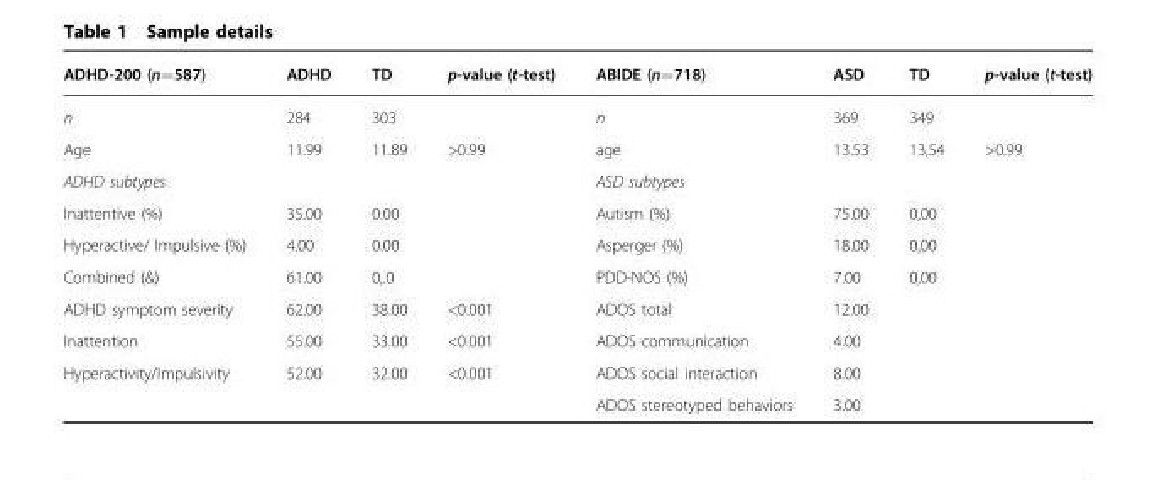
<table><thead><tr><td>ADHD-200 (n=587)</td><td>ADHD</td><td>TD</td><td>p-value (t-test)</td><td>ABIDE (n=718)</td><td>ASD</td><td>TD</td><td>p-value (t-test)</td></tr></thead><tbody><tr><td>n</td><td>284</td><td>303</td><td></td><td>n</td><td>369</td><td>349</td><td></td></tr><tr><td>Age</td><td>11.99</td><td>11.89</td><td>&gt;0.99</td><td>age</td><td>13.53</td><td>13,54</td><td>&gt;0.99</td></tr><tr><td>ADHD subtypes</td><td></td><td></td><td></td><td>ASD subtypes</td><td></td><td></td><td></td></tr><tr><td>Inattentive (%)</td><td>35.00</td><td>0.00</td><td></td><td>Autism (%)</td><td>75.00</td><td>0,00</td><td></td></tr><tr><td>Hyperactive/ Impulsive (%)</td><td>4.00</td><td>0.00</td><td></td><td>Asperger (%)</td><td>18.00</td><td>0,00</td><td></td></tr><tr><td>Combined (&amp;)</td><td>61.00</td><td>0,.0</td><td></td><td>PDD-NOS (%)</td><td>7.00</td><td>0,00</td><td></td></tr><tr><td>ADHD symptom severity</td><td>62.00</td><td>38.00</td><td>&lt;0.001</td><td>ADOS total</td><td>12.00</td><td></td><td></td></tr><tr><td>Inattention</td><td>55.00</td><td>33.00</td><td>&lt;0.001</td><td>ADOS communication</td><td>4.00</td><td></td><td></td></tr><tr><td rowspan="2">Hyperactivity/Impulsivity</td><td>52.00</td><td>32.00</td><td>&lt;0.001</td><td>ADOS social interaction</td><td>8.00</td><td></td><td></td></tr><tr><td></td><td></td><td></td><td>ADOS stereotyped behaviors</td><td>3.00</td><td></td><td></td></tr></tbody></table>